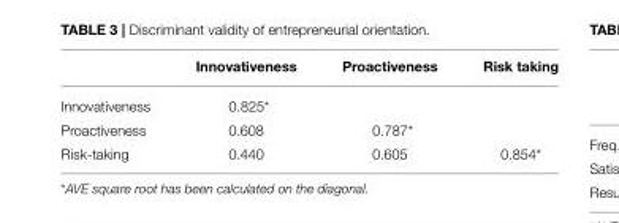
<table><thead><tr><td></td><td>Innovativeness</td><td>Proactiveness</td><td>Risk taking</td></tr></thead><tbody><tr><td>Innovativeness</td><td>0.825*</td><td></td><td></td></tr><tr><td>Proactiveness</td><td>0.608</td><td>0.787*</td><td></td></tr><tr><td>Risk-taking</td><td>0.440</td><td>0.605</td><td>0.854*</td></tr></tbody></table>